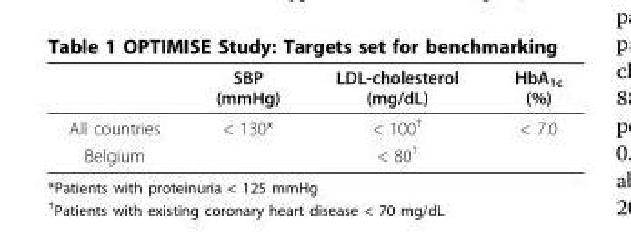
<table><thead><tr><td></td><td>SBP (mmHg)</td><td>LDL-cholesterol (mg/dL)</td><td>HbA<sub>1c</sub> (%)</td></tr></thead><tbody><tr><td>All countries</td><td>&lt; 130*</td><td>&lt; 100<sup>†</sup></td><td>&lt; 7.0</td></tr><tr><td>Belgium</td><td></td><td>&lt; 80<sup>†</sup></td><td></td></tr></tbody></table>